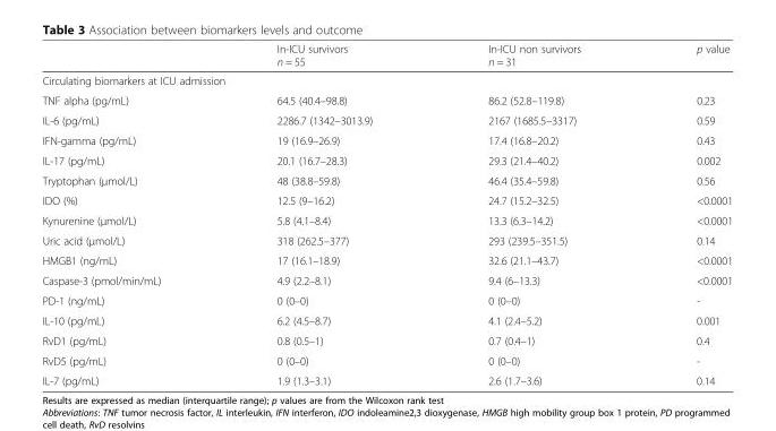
<table><thead><tr><td></td><td>In-ICU survivors n = 55</td><td>In-ICU non survivors n = 31</td><td>p value</td></tr></thead><tbody><tr><td colspan="4">Circulating biomarkers at ICU admission</td></tr><tr><td>TNF alpha (pg/mL)</td><td>64.5 (40.4–98.8)</td><td>86.2 (52.8–119.8)</td><td>0.23</td></tr><tr><td>IL-6 (pg/mL)</td><td>2286.7 (1342–3013.9)</td><td>2167 (1685.5–3317)</td><td>0.59</td></tr><tr><td>IFN-gamma (pg/mL)</td><td>19 (16.9–26.9)</td><td>17.4 (16.8–20.2)</td><td>0.43</td></tr><tr><td>IL-17 (pg/mL)</td><td>20.1 (16.7–28.3)</td><td>29.3 (21.4–40.2)</td><td>0.002</td></tr><tr><td>Tryptophan (μmol/L)</td><td>48 (38.8–59.8)</td><td>46.4 (35.4–59.8)</td><td>0.56</td></tr><tr><td>IDO (%)</td><td>12.5 (9–16.2)</td><td>24.7 (15.2–32.5)</td><td>&lt;0.0001</td></tr><tr><td>Kynurenine (μmol/L)</td><td>5.8 (4.1–8.4)</td><td>13.3 (6.3–14.2)</td><td>&lt;0.0001</td></tr><tr><td>Uric acid (μmol/L)</td><td>318 (262.5–377)</td><td>293 (239.5–351.5)</td><td>0.14</td></tr><tr><td>HMGB1 (ng/mL)</td><td>17 (16.1–18.9)</td><td>32.6 (21.1–43.7)</td><td>&lt;0.0001</td></tr><tr><td>Caspase-3 (pmol/min/mL)</td><td>4.9 (2.2–8.1)</td><td>9.4 (6–13.3)</td><td>&lt;0.0001</td></tr><tr><td>PD-1 (ng/mL)</td><td>0 (0–0)</td><td>0 (0–0)</td><td>-</td></tr><tr><td>IL-10 (pg/mL)</td><td>6.2 (4.5–8.7)</td><td>4.1 (2.4–5.2)</td><td>0.001</td></tr><tr><td>RvD1 (pg/mL)</td><td>0.8 (0.5–1)</td><td>0.7 (0.4–1)</td><td>0.4</td></tr><tr><td>RvD5 (pg/mL)</td><td>0 (0–0)</td><td>0 (0–0)</td><td>-</td></tr><tr><td>IL-7 (pg/mL)</td><td>1.9 (1.3–3.1)</td><td>2.6 (1.7–3.6)</td><td>0.14</td></tr></tbody></table>